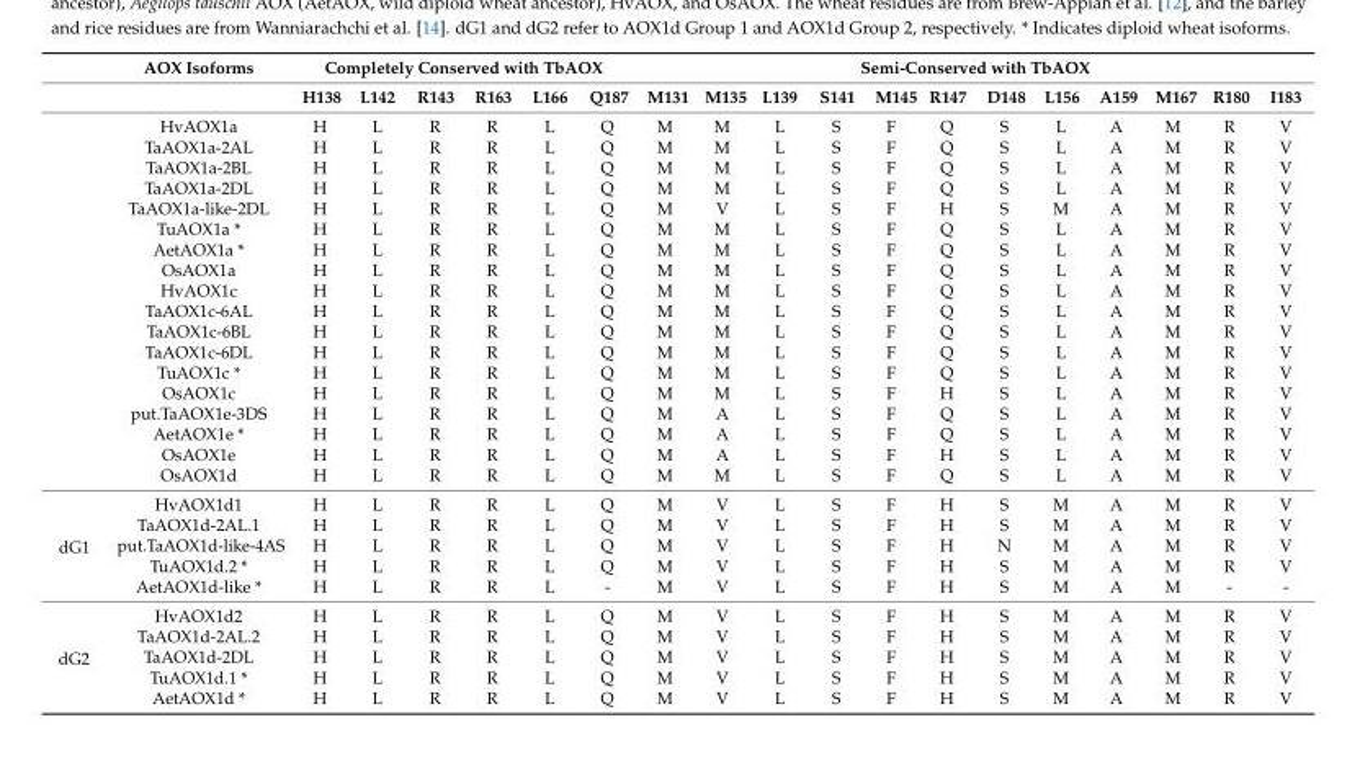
<table><thead><tr><td rowspan="2"></td><td rowspan="2">AOX Isoforms</td><td colspan="6">Completely Conserved with TbAOX</td><td colspan="12">Semi-Conserved with TbAOX</td></tr><tr><td>H138</td><td>L142</td><td>R143</td><td>R163</td><td>L166</td><td>Q187</td><td>M131</td><td>M135</td><td>L139</td><td>S141</td><td>M145</td><td>R147</td><td>D148</td><td>L156</td><td>A159</td><td>M167</td><td>R180</td><td>I183</td></tr></thead><tbody><tr><td rowspan="18"></td><td>HvAOX1a</td><td>H</td><td>L</td><td>R</td><td>R</td><td>L</td><td>Q</td><td>M</td><td>M</td><td>L</td><td>S</td><td>F</td><td>Q</td><td>S</td><td>L</td><td>A</td><td>M</td><td>R</td><td>V</td></tr><tr><td>TaAOX1a-2AL</td><td>H</td><td>L</td><td>R</td><td>R</td><td>L</td><td>Q</td><td>M</td><td>M</td><td>L</td><td>S</td><td>F</td><td>Q</td><td>S</td><td>L</td><td>A</td><td>M</td><td>R</td><td>V</td></tr><tr><td>TaAOX1a-2BL</td><td>H</td><td>L</td><td>R</td><td>R</td><td>L</td><td>Q</td><td>M</td><td>M</td><td>L</td><td>S</td><td>F</td><td>Q</td><td>S</td><td>L</td><td>A</td><td>M</td><td>R</td><td>V</td></tr><tr><td>TaAOX1a-2DL</td><td>H</td><td>L</td><td>R</td><td>R</td><td>L</td><td>Q</td><td>M</td><td>M</td><td>L</td><td>S</td><td>F</td><td>Q</td><td>S</td><td>L</td><td>A</td><td>M</td><td>R</td><td>V</td></tr><tr><td>TaAOX1a-like-2DL</td><td>H</td><td>L</td><td>R</td><td>R</td><td>L</td><td>Q</td><td>M</td><td>V</td><td>L</td><td>S</td><td>F</td><td>H</td><td>S</td><td>M</td><td>A</td><td>M</td><td>R</td><td>V</td></tr><tr><td>TuAOX1a *</td><td>H</td><td>L</td><td>R</td><td>R</td><td>L</td><td>Q</td><td>M</td><td>M</td><td>L</td><td>S</td><td>F</td><td>Q</td><td>S</td><td>L</td><td>A</td><td>M</td><td>R</td><td>V</td></tr><tr><td>AetAOX1a *</td><td>H</td><td>L</td><td>R</td><td>R</td><td>L</td><td>Q</td><td>M</td><td>M</td><td>L</td><td>S</td><td>F</td><td>Q</td><td>S</td><td>L</td><td>A</td><td>M</td><td>R</td><td>V</td></tr><tr><td>OsAOX1a</td><td>H</td><td>L</td><td>R</td><td>R</td><td>L</td><td>Q</td><td>M</td><td>M</td><td>L</td><td>S</td><td>F</td><td>Q</td><td>S</td><td>L</td><td>A</td><td>M</td><td>R</td><td>V</td></tr><tr><td>HvAOX1c</td><td>H</td><td>L</td><td>R</td><td>R</td><td>L</td><td>Q</td><td>M</td><td>M</td><td>L</td><td>S</td><td>F</td><td>Q</td><td>S</td><td>L</td><td>A</td><td>M</td><td>R</td><td>V</td></tr><tr><td>TaAOX1c-6AL</td><td>H</td><td>L</td><td>R</td><td>R</td><td>L</td><td>Q</td><td>M</td><td>M</td><td>L</td><td>S</td><td>F</td><td>Q</td><td>S</td><td>L</td><td>A</td><td>M</td><td>R</td><td>V</td></tr><tr><td>TaAOX1c-6BL</td><td>H</td><td>L</td><td>R</td><td>R</td><td>L</td><td>Q</td><td>M</td><td>M</td><td>L</td><td>S</td><td>F</td><td>Q</td><td>S</td><td>L</td><td>A</td><td>M</td><td>R</td><td>V</td></tr><tr><td>TaAOX1c-6DL</td><td>H</td><td>L</td><td>R</td><td>R</td><td>L</td><td>Q</td><td>M</td><td>M</td><td>L</td><td>S</td><td>F</td><td>Q</td><td>S</td><td>L</td><td>A</td><td>M</td><td>R</td><td>V</td></tr><tr><td>TuAOX1c *</td><td>H</td><td>L</td><td>R</td><td>R</td><td>L</td><td>Q</td><td>M</td><td>M</td><td>L</td><td>S</td><td>F</td><td>Q</td><td>S</td><td>L</td><td>A</td><td>M</td><td>R</td><td>V</td></tr><tr><td>OsAOX1c</td><td>H</td><td>L</td><td>R</td><td>R</td><td>L</td><td>Q</td><td>M</td><td>M</td><td>L</td><td>S</td><td>F</td><td>H</td><td>S</td><td>L</td><td>A</td><td>M</td><td>R</td><td>V</td></tr><tr><td>put.TaAOX1e-3DS</td><td>H</td><td>L</td><td>R</td><td>R</td><td>L</td><td>Q</td><td>M</td><td>A</td><td>L</td><td>S</td><td>F</td><td>Q</td><td>S</td><td>L</td><td>A</td><td>M</td><td>R</td><td>V</td></tr><tr><td>AetAOX1e *</td><td>H</td><td>L</td><td>R</td><td>R</td><td>L</td><td>Q</td><td>M</td><td>A</td><td>L</td><td>S</td><td>F</td><td>Q</td><td>S</td><td>L</td><td>A</td><td>M</td><td>R</td><td>V</td></tr><tr><td>OsAOX1e</td><td>H</td><td>L</td><td>R</td><td>R</td><td>L</td><td>Q</td><td>M</td><td>A</td><td>L</td><td>S</td><td>F</td><td>H</td><td>S</td><td>L</td><td>A</td><td>M</td><td>R</td><td>V</td></tr><tr><td>OsAOX1d</td><td>H</td><td>L</td><td>R</td><td>R</td><td>L</td><td>Q</td><td>M</td><td>M</td><td>L</td><td>S</td><td>F</td><td>Q</td><td>S</td><td>L</td><td>A</td><td>M</td><td>R</td><td>V</td></tr><tr><td rowspan="5">dG1</td><td>HvAOX1d1</td><td>H</td><td>L</td><td>R</td><td>R</td><td>L</td><td>Q</td><td>M</td><td>V</td><td>L</td><td>S</td><td>F</td><td>H</td><td>S</td><td>M</td><td>A</td><td>M</td><td>R</td><td>V</td></tr><tr><td>TaAOX1d-2AL.1</td><td>H</td><td>L</td><td>R</td><td>R</td><td>L</td><td>Q</td><td>M</td><td>V</td><td>L</td><td>S</td><td>F</td><td>H</td><td>S</td><td>M</td><td>A</td><td>M</td><td>R</td><td>V</td></tr><tr><td>put.TaAOX1d-like-4AS</td><td>H</td><td>L</td><td>R</td><td>R</td><td>L</td><td>Q</td><td>M</td><td>V</td><td>L</td><td>S</td><td>F</td><td>H</td><td>N</td><td>M</td><td>A</td><td>M</td><td>R</td><td>V</td></tr><tr><td>TuAOX1d.2 *</td><td>H</td><td>L</td><td>R</td><td>R</td><td>L</td><td>Q</td><td>M</td><td>V</td><td>L</td><td>S</td><td>F</td><td>H</td><td>S</td><td>M</td><td>A</td><td>M</td><td>R</td><td>V</td></tr><tr><td>AetAOX1d-like *</td><td>H</td><td>L</td><td>R</td><td>R</td><td>L</td><td>-</td><td>M</td><td>V</td><td>L</td><td>S</td><td>F</td><td>H</td><td>S</td><td>M</td><td>A</td><td>M</td><td>-</td><td>-</td></tr><tr><td rowspan="5">dG2</td><td>HvAOX1d2</td><td>H</td><td>L</td><td>R</td><td>R</td><td>L</td><td>Q</td><td>M</td><td>V</td><td>L</td><td>S</td><td>F</td><td>H</td><td>S</td><td>M</td><td>A</td><td>M</td><td>R</td><td>V</td></tr><tr><td>TaAOX1d-2AL.2</td><td>H</td><td>L</td><td>R</td><td>R</td><td>L</td><td>Q</td><td>M</td><td>V</td><td>L</td><td>S</td><td>F</td><td>H</td><td>S</td><td>M</td><td>A</td><td>M</td><td>R</td><td>V</td></tr><tr><td>TaAOX1d-2DL</td><td>H</td><td>L</td><td>R</td><td>R</td><td>L</td><td>Q</td><td>M</td><td>V</td><td>L</td><td>S</td><td>F</td><td>H</td><td>S</td><td>M</td><td>A</td><td>M</td><td>R</td><td>V</td></tr><tr><td>TuAOX1d.1 *</td><td>H</td><td>L</td><td>R</td><td>R</td><td>L</td><td>Q</td><td>M</td><td>V</td><td>L</td><td>S</td><td>F</td><td>H</td><td>S</td><td>M</td><td>A</td><td>M</td><td>R</td><td>V</td></tr><tr><td>AetAOX1d *</td><td>H</td><td>L</td><td>R</td><td>R</td><td>L</td><td>Q</td><td>M</td><td>V</td><td>L</td><td>S</td><td>F</td><td>H</td><td>S</td><td>M</td><td>A</td><td>M</td><td>R</td><td>V</td></tr></tbody></table>